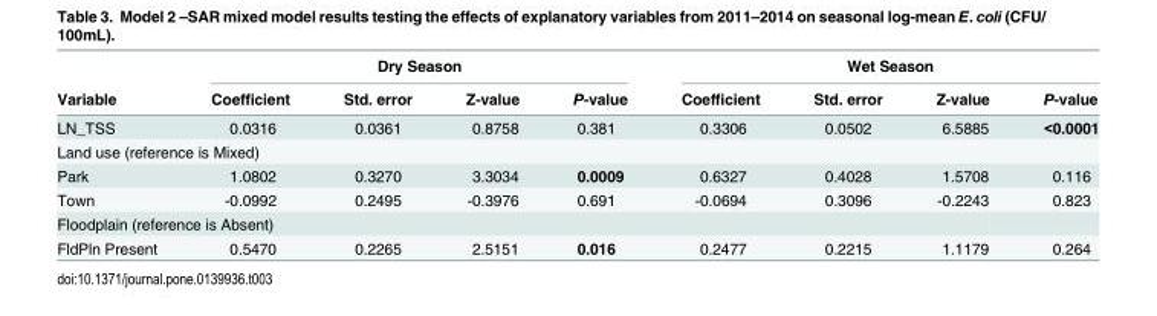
<table><thead><tr><td rowspan="2">Variable</td><td colspan="4">Dry Season</td><td colspan="4">Wet Season</td></tr><tr><td>Coefficient</td><td>Std. error</td><td>Z-value</td><td>P-value</td><td>Coefficient</td><td>Std. error</td><td>Z-value</td><td>P-value</td></tr></thead><tbody><tr><td>LN_TSS</td><td>0.0316</td><td>0.0361</td><td>0.8758</td><td>0.381</td><td>0.3306</td><td>0.0502</td><td>6.5885</td><td>&lt;0.0001</td></tr><tr><td colspan="9">Land use (reference is Mixed)</td></tr><tr><td>Park</td><td>1.0802</td><td>0.3270</td><td>3.3034</td><td>0.0009</td><td>0.6327</td><td>0.4028</td><td>1.5708</td><td>0.116</td></tr><tr><td>Town</td><td>-0.0992</td><td>0.2495</td><td>-0.3976</td><td>0.691</td><td>-0.0694</td><td>0.3096</td><td>-0.2243</td><td>0.823</td></tr><tr><td colspan="9">Floodplain (reference is Absent)</td></tr><tr><td>FldPln Present</td><td>0.5470</td><td>0.2265</td><td>2.5151</td><td>0.016</td><td>0.2477</td><td>0.2215</td><td>1.1179</td><td>0.264</td></tr></tbody></table>